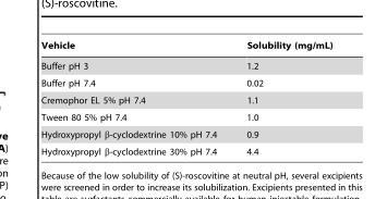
<table><thead><tr><td>Vehicle</td><td>Solubility (mg/mL)</td></tr></thead><tbody><tr><td>Buffer pH 3</td><td>1.2</td></tr><tr><td>Buffer pH 7.4</td><td>0.02</td></tr><tr><td>Cremophor EL 5% pH 7.4</td><td>1.1</td></tr><tr><td>Tween 80 5% pH 7.4</td><td>1.0</td></tr><tr><td>Hydroxypropyl β-cyclodextrine 10% pH 7.4</td><td>0.9</td></tr><tr><td>Hydroxypropyl β-cyclodextrine 30% pH 7.4</td><td>4.4</td></tr></tbody></table>